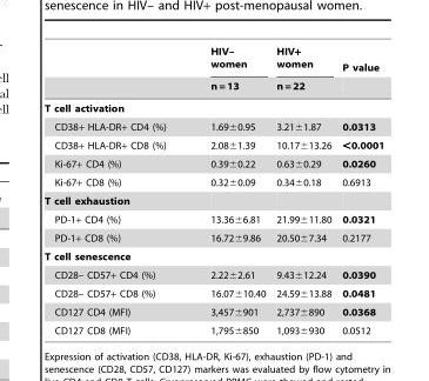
<table><thead><tr><td rowspan="2"></td><td rowspan="2">HIV– women n = 13</td><td rowspan="2">HIV+ women n = 22</td><td rowspan="2">P value</td></tr><tr></tr></thead><tbody><tr><td colspan="4">T cell activation</td></tr><tr><td>CD38+ HLA-DR+ CD4 (%)</td><td>1.69±0.95</td><td>3.21±1.87</td><td>0.0313</td></tr><tr><td>CD38+ HLA-DR+ CD8 (%)</td><td>2.08±1.39</td><td>10.17±13.26</td><td>&lt;0.0001</td></tr><tr><td>Ki-67+ CD4 (%)</td><td>0.39±0.22</td><td>0.63±0.29</td><td>0.0260</td></tr><tr><td>Ki-67+ CD8 (%)</td><td>0.32±0.09</td><td>0.34±0.18</td><td>0.6913</td></tr><tr><td colspan="4">T cell exhaustion</td></tr><tr><td>PD-1+ CD4 (%)</td><td>13.36±6.81</td><td>21.99±11.80</td><td>0.0321</td></tr><tr><td>PD-1+ CD8 (%)</td><td>16.72±9.86</td><td>20.50±7.34</td><td>0.2177</td></tr><tr><td colspan="4">T cell senescence</td></tr><tr><td>CD28– CD57+ CD4 (%)</td><td>2.22±2.61</td><td>9.43±12.24</td><td>0.0390</td></tr><tr><td>CD28– CD57+ CD8 (%)</td><td>16.07±10.40</td><td>24.59±13.88</td><td>0.0481</td></tr><tr><td>CD127 CD4 (MFI)</td><td>3,457±901</td><td>2,737±890</td><td>0.0368</td></tr><tr><td>CD127 CD8 (MFI)</td><td>1,795±850</td><td>1,093±930</td><td>0.0512</td></tr></tbody></table>